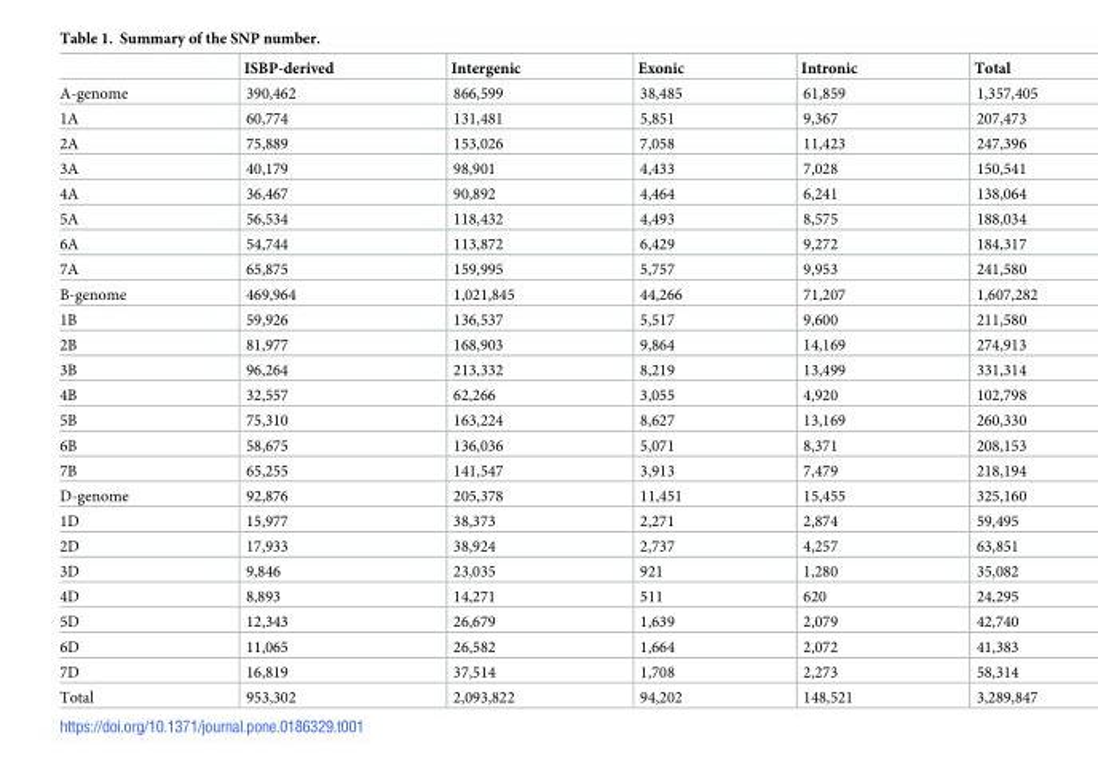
<table><thead><tr><td></td><td>ISBP-derived</td><td>Intergenic</td><td>Exonic</td><td>Intronic</td><td>Total</td></tr></thead><tbody><tr><td>A-genome</td><td>390,462</td><td>866,599</td><td>38,485</td><td>61,859</td><td>1,357,405</td></tr><tr><td>1A</td><td>60,774</td><td>131,481</td><td>5,851</td><td>9,367</td><td>207,473</td></tr><tr><td>2A</td><td>75,889</td><td>153,026</td><td>7,058</td><td>11,423</td><td>247,396</td></tr><tr><td>3A</td><td>40,179</td><td>98,901</td><td>4,433</td><td>7,028</td><td>150,541</td></tr><tr><td>4A</td><td>36,467</td><td>90,892</td><td>4,464</td><td>6,241</td><td>138,064</td></tr><tr><td>5A</td><td>56,534</td><td>118,432</td><td>4,493</td><td>8,575</td><td>188,034</td></tr><tr><td>6A</td><td>54,744</td><td>113,872</td><td>6,429</td><td>9,272</td><td>184,317</td></tr><tr><td>7A</td><td>65,875</td><td>159,995</td><td>5,757</td><td>9,953</td><td>241,580</td></tr><tr><td>B-genome</td><td>469,964</td><td>1,021,845</td><td>44,266</td><td>71,207</td><td>1,607,282</td></tr><tr><td>1B</td><td>59,926</td><td>136,537</td><td>5,517</td><td>9,600</td><td>211,580</td></tr><tr><td>2B</td><td>81,977</td><td>168,903</td><td>9,864</td><td>14,169</td><td>274,913</td></tr><tr><td>3B</td><td>96,264</td><td>213,332</td><td>8,219</td><td>13,499</td><td>331,314</td></tr><tr><td>4B</td><td>32,557</td><td>62,266</td><td>3,055</td><td>4,920</td><td>102,798</td></tr><tr><td>5B</td><td>75,310</td><td>163,224</td><td>8,627</td><td>13,169</td><td>260,330</td></tr><tr><td>6B</td><td>58,675</td><td>136,036</td><td>5,071</td><td>8,371</td><td>208,153</td></tr><tr><td>7B</td><td>65,255</td><td>141,547</td><td>3,913</td><td>7,479</td><td>218,194</td></tr><tr><td>D-genome</td><td>92,876</td><td>205,378</td><td>11,451</td><td>15,455</td><td>325,160</td></tr><tr><td>1D</td><td>15,977</td><td>38,373</td><td>2,271</td><td>2,874</td><td>59,495</td></tr><tr><td>2D</td><td>17,933</td><td>38,924</td><td>2,737</td><td>4,257</td><td>63,851</td></tr><tr><td>3D</td><td>9,846</td><td>23,035</td><td>921</td><td>1,280</td><td>35,082</td></tr><tr><td>4D</td><td>8,893</td><td>14,271</td><td>511</td><td>620</td><td>24,295</td></tr><tr><td>5D</td><td>12,343</td><td>26,679</td><td>1,639</td><td>2,079</td><td>42,740</td></tr><tr><td>6D</td><td>11,065</td><td>26,582</td><td>1,664</td><td>2,072</td><td>41,383</td></tr><tr><td>7D</td><td>16,819</td><td>37,514</td><td>1,708</td><td>2,273</td><td>58,314</td></tr><tr><td>Total</td><td>953,302</td><td>2,093,822</td><td>94,202</td><td>148,521</td><td>3,289,847</td></tr></tbody></table>